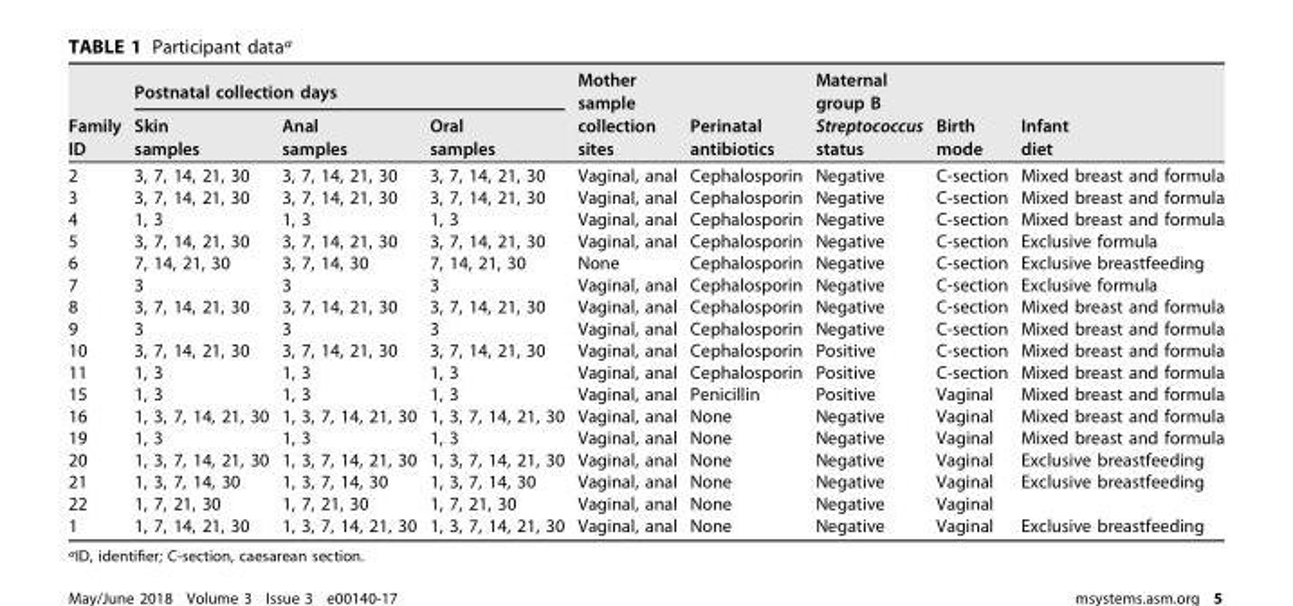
<table><thead><tr><td rowspan="2">Family ID</td><td colspan="3">Postnatal collection days</td><td rowspan="2">Mother sample collection sites</td><td rowspan="2">Perinatal antibiotics</td><td rowspan="2">Maternal group B Streptococcus status</td><td rowspan="2">Birth mode</td><td rowspan="2">Infant diet</td></tr><tr><td>Skin samples</td><td>Anal samples</td><td>Oral samples</td></tr></thead><tbody><tr><td>2</td><td>3, 7, 14, 21, 30</td><td>3, 7, 14, 21, 30</td><td>3, 7, 14, 21, 30</td><td>Vaginal, anal</td><td>Cephalosporin</td><td>Negative</td><td>C-section</td><td>Mixed breast and formula</td></tr><tr><td>3</td><td>3, 7, 14, 21, 30</td><td>3, 7, 14, 21, 30</td><td>3, 7, 14, 21, 30</td><td>Vaginal, anal</td><td>Cephalosporin</td><td>Negative</td><td>C-section</td><td>Mixed breast and formula</td></tr><tr><td>4</td><td>1, 3</td><td>1, 3</td><td>1, 3</td><td>Vaginal, anal</td><td>Cephalosporin</td><td>Negative</td><td>C-section</td><td>Mixed breast and formula</td></tr><tr><td>5</td><td>3, 7, 14, 21, 30</td><td>3, 7, 14, 21, 30</td><td>3, 7, 14, 21, 30</td><td>Vaginal, anal</td><td>Cephalosporin</td><td>Negative</td><td>C-section</td><td>Exclusive formula</td></tr><tr><td>6</td><td>7, 14, 21, 30</td><td>3, 7, 14, 30</td><td>7, 14, 21, 30</td><td>None</td><td>Cephalosporin</td><td>Negative</td><td>C-section</td><td>Exclusive breastfeeding</td></tr><tr><td>7</td><td>3</td><td>3</td><td>3</td><td>Vaginal, anal</td><td>Cephalosporin</td><td>Negative</td><td>C-section</td><td>Exclusive formula</td></tr><tr><td>8</td><td>3, 7, 14, 21, 30</td><td>3, 7, 14, 21, 30</td><td>3, 7, 14, 21, 30</td><td>Vaginal, anal</td><td>Cephalosporin</td><td>Negative</td><td>C-section</td><td>Mixed breast and formula</td></tr><tr><td>9</td><td>3</td><td>3</td><td>3</td><td>Vaginal, anal</td><td>Cephalosporin</td><td>Negative</td><td>C-section</td><td>Mixed breast and formula</td></tr><tr><td>10</td><td>3, 7, 14, 21, 30</td><td>3, 7, 14, 21, 30</td><td>3, 7, 14, 21, 30</td><td>Vaginal, anal</td><td>Cephalosporin</td><td>Positive</td><td>C-section</td><td>Mixed breast and formula</td></tr><tr><td>11</td><td>1, 3</td><td>1, 3</td><td>1, 3</td><td>Vaginal, anal</td><td>Cephalosporin</td><td>Positive</td><td>C-section</td><td>Mixed breast and formula</td></tr><tr><td>15</td><td>1, 3</td><td>1, 3</td><td>1, 3</td><td>Vaginal, anal</td><td>Penicillin</td><td>Positive</td><td>Vaginal</td><td>Mixed breast and formula</td></tr><tr><td>16</td><td>1, 3, 7, 14, 21, 30</td><td>1, 3, 7, 14, 21, 30</td><td>1, 3, 7, 14, 21, 30</td><td>Vaginal, anal</td><td>None</td><td>Negative</td><td>Vaginal</td><td>Mixed breast and formula</td></tr><tr><td>19</td><td>1, 3</td><td>1, 3</td><td>1, 3</td><td>Vaginal, anal</td><td>None</td><td>Negative</td><td>Vaginal</td><td>Mixed breast and formula</td></tr><tr><td>20</td><td>1, 3, 7, 14, 21, 30</td><td>1, 3, 7, 14, 21, 30</td><td>1, 3, 7, 14, 21, 30</td><td>Vaginal, anal</td><td>None</td><td>Negative</td><td>Vaginal</td><td>Exclusive breastfeeding</td></tr><tr><td>21</td><td>1, 3, 7, 14, 30</td><td>1, 3, 7, 14, 30</td><td>1, 3, 7, 14, 30</td><td>Vaginal, anal</td><td>None</td><td>Negative</td><td>Vaginal</td><td>Exclusive breastfeeding</td></tr><tr><td>22</td><td>1, 7, 21, 30</td><td>1, 7, 21, 30</td><td>1, 7, 21, 30</td><td>Vaginal, anal</td><td>None</td><td>Negative</td><td>Vaginal</td><td></td></tr><tr><td>1</td><td>1, 7, 14, 21, 30</td><td>1, 3, 7, 14, 21, 30</td><td>1, 3, 7, 14, 21, 30</td><td>Vaginal, anal</td><td>None</td><td>Negative</td><td>Vaginal</td><td>Exclusive breastfeeding</td></tr></tbody></table>